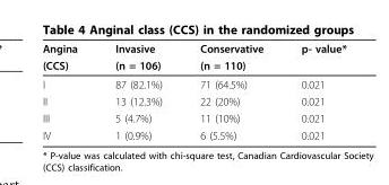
<table><thead><tr><td rowspan="2">Angina (CCS)</td><td rowspan="2">Invasive (n = 106)</td><td rowspan="2">Conservative (n = 110)</td><td rowspan="2">p- value*</td></tr><tr></tr></thead><tbody><tr><td>I</td><td>87 (82.1%)</td><td>71 (64.5%)</td><td>0.021</td></tr><tr><td>II</td><td>13 (12.3%)</td><td>22 (20%)</td><td>0.021</td></tr><tr><td>III</td><td>5 (4.7%)</td><td>11 (10%)</td><td>0.021</td></tr><tr><td>IV</td><td>1 (0.9%)</td><td>6 (5.5%)</td><td>0.021</td></tr></tbody></table>